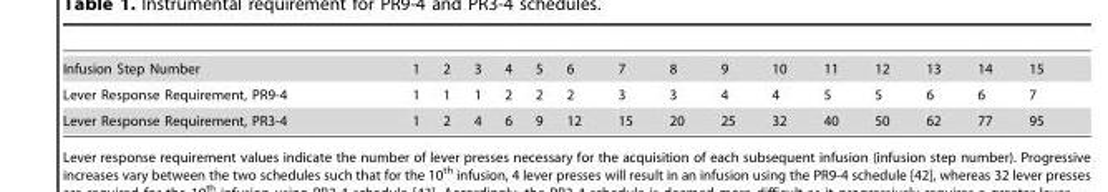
<table><tbody><tr><td>Infusion Step Number</td><td>1</td><td>2</td><td>3</td><td>4</td><td>5</td><td>6</td><td>7</td><td>8</td><td>9</td><td>10</td><td>11</td><td>12</td><td>13</td><td>14</td><td>15</td></tr><tr><td>Lever Response Requirement, PR9-4</td><td>1</td><td>1</td><td>1</td><td>2</td><td>2</td><td>2</td><td>3</td><td>3</td><td>4</td><td>4</td><td>5</td><td>5</td><td>6</td><td>6</td><td>7</td></tr><tr><td>Lever Response Requirement, PR3-4</td><td>1</td><td>2</td><td>4</td><td>6</td><td>9</td><td>12</td><td>15</td><td>20</td><td>25</td><td>32</td><td>40</td><td>50</td><td>62</td><td>77</td><td>95</td></tr></tbody></table>